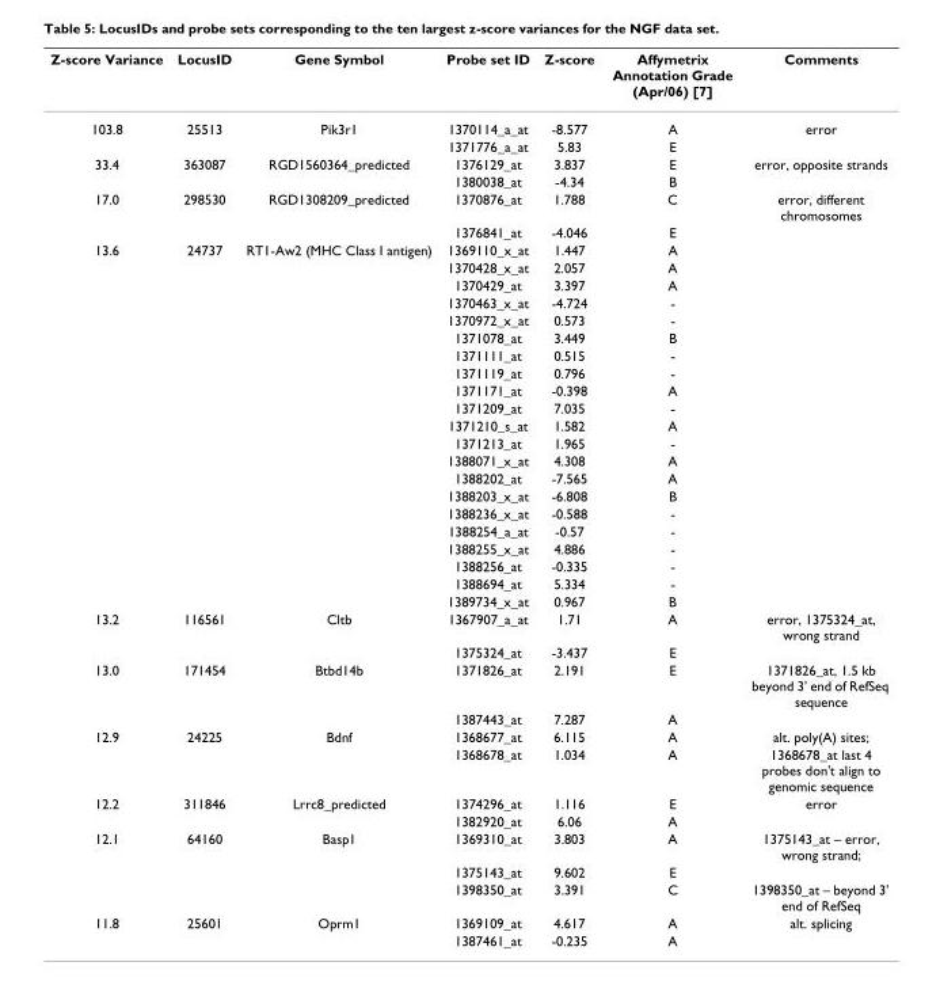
<table><thead><tr><td>Z-score Variance</td><td>LocusID</td><td>Gene Symbol</td><td>Probe set ID</td><td>Z-score</td><td>Affymetrix Annotation Grade (Apr/06) [7]</td><td>Comments</td></tr></thead><tbody><tr><td rowspan="2">103.8</td><td>25513</td><td>Pik3r1</td><td>1370114_a_at</td><td>-8.577</td><td>A</td><td>error</td></tr><tr><td></td><td></td><td>1371776_a_at</td><td>5.83</td><td>E</td><td></td></tr><tr><td rowspan="2">33.4</td><td>363087</td><td>RGD1560364_predicted</td><td>1376129_at</td><td>3.837</td><td>E</td><td>error, opposite strands</td></tr><tr><td></td><td></td><td>1380038_at</td><td>-4.34</td><td>B</td><td></td></tr><tr><td rowspan="2">17.0</td><td>298530</td><td>RGD1308209_predicted</td><td>1370876_at</td><td>1.788</td><td>C</td><td>error, different chromosomes</td></tr><tr><td></td><td></td><td>1376841_at</td><td>-4.046</td><td>E</td><td></td></tr><tr><td rowspan="21">13.6</td><td>24737</td><td>RT1-Aw2 (MHC Class I antigen)</td><td>1369110_x_at</td><td>1.447</td><td>A</td><td></td></tr><tr><td></td><td></td><td>1370428_x_at</td><td>2.057</td><td>A</td><td></td></tr><tr><td></td><td></td><td>1370429_at</td><td>3.397</td><td>A</td><td></td></tr><tr><td></td><td></td><td>1370463_x_at</td><td>-4.724</td><td>-</td><td></td></tr><tr><td></td><td></td><td>1370972_x_at</td><td>0.573</td><td>-</td><td></td></tr><tr><td></td><td></td><td>1371078_at</td><td>3.449</td><td>B</td><td></td></tr><tr><td></td><td></td><td>1371111_at</td><td>0.515</td><td>-</td><td></td></tr><tr><td></td><td></td><td>1371119_at</td><td>0.796</td><td>-</td><td></td></tr><tr><td></td><td></td><td>1371171_at</td><td>-0.398</td><td>A</td><td></td></tr><tr><td></td><td></td><td>1371209_at</td><td>7.035</td><td>-</td><td></td></tr><tr><td></td><td></td><td>1371210_s_at</td><td>1.582</td><td>A</td><td></td></tr><tr><td></td><td></td><td>1371213_at</td><td>1.965</td><td>-</td><td></td></tr><tr><td></td><td></td><td>1388071_x_at</td><td>4.308</td><td>A</td><td></td></tr><tr><td></td><td></td><td>1388202_at</td><td>-7.565</td><td>A</td><td></td></tr><tr><td></td><td></td><td>1388203_x_at</td><td>-6.808</td><td>B</td><td></td></tr><tr><td></td><td></td><td>1388236_x_at</td><td>-0.588</td><td>-</td><td></td></tr><tr><td></td><td></td><td>1388254_a_at</td><td>-0.57</td><td>-</td><td></td></tr><tr><td></td><td></td><td>1388255_x_at</td><td>4.886</td><td>-</td><td></td></tr><tr><td></td><td></td><td>1388256_at</td><td>-0.335</td><td>-</td><td></td></tr><tr><td></td><td></td><td>1388694_at</td><td>5.334</td><td>-</td><td></td></tr><tr><td></td><td></td><td>1389734_x_at</td><td>0.967</td><td>B</td><td></td></tr><tr><td rowspan="2">13.2</td><td>116561</td><td>Cltb</td><td>1367907_a_at</td><td>1.71</td><td>A</td><td>error, 1375324_at, wrong strand</td></tr><tr><td></td><td></td><td>1375324_at</td><td>-3.437</td><td>E</td><td></td></tr><tr><td rowspan="2">13.0</td><td>171454</td><td>Btbd14b</td><td>1371826_at</td><td>2.191</td><td>E</td><td>1371826_at, 1.5 kb beyond 3&#x27; end of RefSeq sequence</td></tr><tr><td></td><td></td><td>1387443_at</td><td>7.287</td><td>A</td><td></td></tr><tr><td rowspan="2">12.9</td><td>24225</td><td>Bdnf</td><td>1368677_at</td><td>6.115</td><td>A</td><td>alt. poly(A) sites;</td></tr><tr><td></td><td></td><td>1368678_at</td><td>1.034</td><td>A</td><td>1368678_at last 4 probes don&#x27;t align to genomic sequence</td></tr><tr><td rowspan="2">12.2</td><td>311846</td><td>Lrrc8_predicted</td><td>1374296_at</td><td>1.116</td><td>E</td><td>error</td></tr><tr><td></td><td></td><td>1382920_at</td><td>6.06</td><td>A</td><td></td></tr><tr><td rowspan="3">12.1</td><td>64160</td><td>Basp1</td><td>1369310_at</td><td>3.803</td><td>A</td><td>1375143_at – error, wrong strand;</td></tr><tr><td></td><td></td><td>1375143_at</td><td>9.602</td><td>E</td><td></td></tr><tr><td></td><td></td><td>1398350_at</td><td>3.391</td><td>C</td><td>1398350_at – beyond 3&#x27; end of RefSeq</td></tr><tr><td rowspan="2">11.8</td><td>25601</td><td>Oprm1</td><td>1369109_at</td><td>4.617</td><td>A</td><td>alt. splicing</td></tr><tr><td></td><td></td><td>1387461_at</td><td>-0.235</td><td>A</td><td></td></tr></tbody></table>